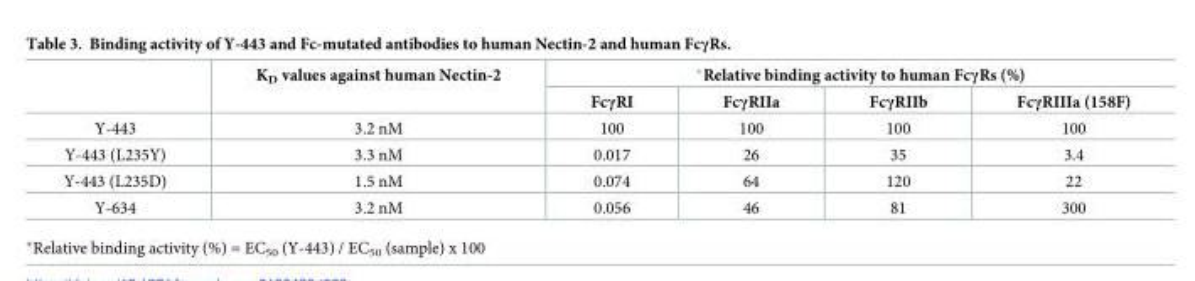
<table><thead><tr><td rowspan="2"></td><td rowspan="2">K<sub>D</sub> values against human Nectin-2</td><td colspan="4">*Relative binding activity to human FcγRs (%)</td></tr><tr><td>FcγRI</td><td>FcγRIIa</td><td>FcγRIIb</td><td>FcγRIIIa (158F)</td></tr></thead><tbody><tr><td>Y-443</td><td>3.2 nM</td><td>100</td><td>100</td><td>100</td><td>100</td></tr><tr><td>Y-443 (L235Y)</td><td>3.3 nM</td><td>0.017</td><td>26</td><td>35</td><td>3.4</td></tr><tr><td>Y-443 (L235D)</td><td>1.5 nM</td><td>0.074</td><td>64</td><td>120</td><td>22</td></tr><tr><td>Y-634</td><td>3.2 nM</td><td>0.056</td><td>46</td><td>81</td><td>300</td></tr></tbody></table>